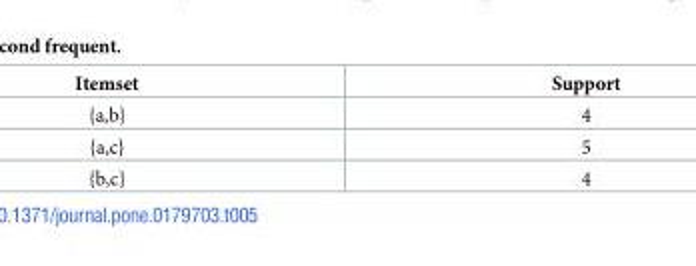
<table><thead><tr><td>Itemset</td><td>Support</td></tr></thead><tbody><tr><td>{a,b}</td><td>4</td></tr><tr><td>{a,c}</td><td>5</td></tr><tr><td>{b,c}</td><td>4</td></tr></tbody></table>